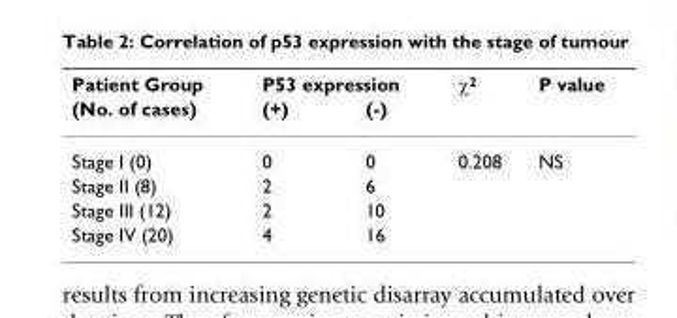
<table><thead><tr><td rowspan="2">Patient Group (No. of cases)</td><td colspan="2">P53 expression</td><td rowspan="2">χ2</td><td rowspan="2">P value</td></tr><tr><td>(+)</td><td>(-)</td></tr></thead><tbody><tr><td>Stage I (0)</td><td>0</td><td>0</td><td>0.208</td><td>NS</td></tr><tr><td>Stage II (8)</td><td>2</td><td>6</td><td></td><td></td></tr><tr><td>Stage III (12)</td><td>2</td><td>10</td><td></td><td></td></tr><tr><td>Stage IV (20)</td><td>4</td><td>16</td><td></td><td></td></tr></tbody></table>